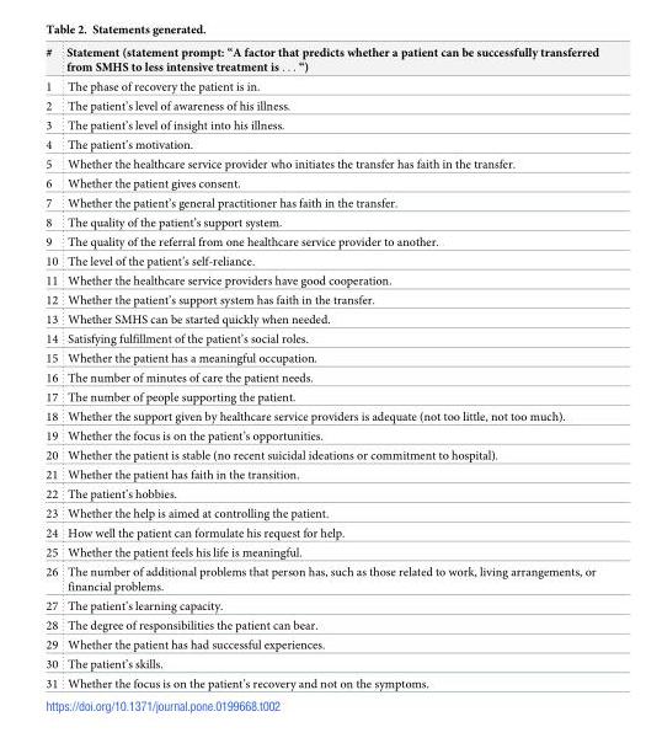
<table><thead><tr><td>#</td><td>Statement (statement prompt: “A factor that predicts whether a patient can be successfully transferred from SMHS to less intensive treatment is . . . “)</td></tr></thead><tbody><tr><td>1</td><td>The phase of recovery the patient is in.</td></tr><tr><td>2</td><td>The patient’s level of awareness of his illness.</td></tr><tr><td>3</td><td>The patient’s level of insight into his illness.</td></tr><tr><td>4</td><td>The patient’s motivation.</td></tr><tr><td>5</td><td>Whether the healthcare service provider who initiates the transfer has faith in the transfer.</td></tr><tr><td>6</td><td>Whether the patient gives consent.</td></tr><tr><td>7</td><td>Whether the patient’s general practitioner has faith in the transfer.</td></tr><tr><td>8</td><td>The quality of the patient’s support system.</td></tr><tr><td>9</td><td>The quality of the referral from one healthcare service provider to another.</td></tr><tr><td>10</td><td>The level of the patient’s self-reliance.</td></tr><tr><td>11</td><td>Whether the healthcare service providers have good cooperation.</td></tr><tr><td>12</td><td>Whether the patient’s support system has faith in the transfer.</td></tr><tr><td>13</td><td>Whether SMHS can be started quickly when needed.</td></tr><tr><td>14</td><td>Satisfying fulfillment of the patient’s social roles.</td></tr><tr><td>15</td><td>Whether the patient has a meaningful occupation.</td></tr><tr><td>16</td><td>The number of minutes of care the patient needs.</td></tr><tr><td>17</td><td>The number of people supporting the patient.</td></tr><tr><td>18</td><td>Whether the support given by healthcare service providers is adequate (not too little, not too much).</td></tr><tr><td>19</td><td>Whether the focus is on the patient’s opportunities.</td></tr><tr><td>20</td><td>Whether the patient is stable (no recent suicidal ideations or commitment to hospital).</td></tr><tr><td>21</td><td>Whether the patient has faith in the transition.</td></tr><tr><td>22</td><td>The patient’s hobbies.</td></tr><tr><td>23</td><td>Whether the help is aimed at controlling the patient.</td></tr><tr><td>24</td><td>How well the patient can formulate his request for help.</td></tr><tr><td>25</td><td>Whether the patient feels his life is meaningful.</td></tr><tr><td>26</td><td>The number of additional problems that person has, such as those related to work, living arrangements, or financial problems.</td></tr><tr><td>27</td><td>The patient’s learning capacity.</td></tr><tr><td>28</td><td>The degree of responsibilities the patient can bear.</td></tr><tr><td>29</td><td>Whether the patient has had successful experiences.</td></tr><tr><td>30</td><td>The patient’s skills.</td></tr><tr><td>31</td><td>Whether the focus is on the patient’s recovery and not on the symptoms.</td></tr></tbody></table>